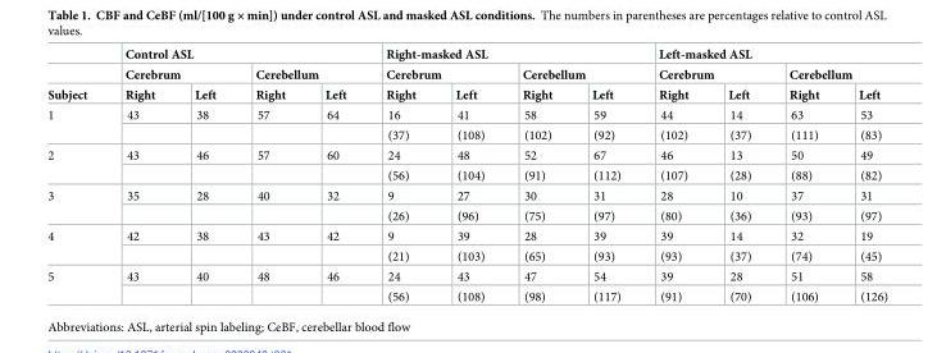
<table><thead><tr><td rowspan="3">Subject</td><td colspan="4">Control ASL</td><td colspan="4">Right-masked ASL</td><td colspan="4">Left-masked ASL</td></tr><tr><td colspan="2">Cerebrum</td><td colspan="2">Cerebellum</td><td colspan="2">Cerebrum</td><td colspan="2">Cerebellum</td><td colspan="2">Cerebrum</td><td colspan="2">Cerebellum</td></tr><tr><td>Right</td><td>Left</td><td>Right</td><td>Left</td><td>Right</td><td>Left</td><td>Right</td><td>Left</td><td>Right</td><td>Left</td><td>Right</td><td>Left</td></tr></thead><tbody><tr><td rowspan="2">1</td><td>43</td><td>38</td><td>57</td><td>64</td><td>16</td><td>41</td><td>58</td><td>59</td><td>44</td><td>14</td><td>63</td><td>53</td></tr><tr><td></td><td></td><td></td><td></td><td>(37)</td><td>(108)</td><td>(102)</td><td>(92)</td><td>(102)</td><td>(37)</td><td>(111)</td><td>(83)</td></tr><tr><td rowspan="2">2</td><td>43</td><td>46</td><td>57</td><td>60</td><td>24</td><td>48</td><td>52</td><td>67</td><td>46</td><td>13</td><td>50</td><td>49</td></tr><tr><td></td><td></td><td></td><td></td><td>(56)</td><td>(104)</td><td>(91)</td><td>(112)</td><td>(107)</td><td>(28)</td><td>(88)</td><td>(82)</td></tr><tr><td rowspan="2">3</td><td>35</td><td>28</td><td>40</td><td>32</td><td>9</td><td>27</td><td>30</td><td>31</td><td>28</td><td>10</td><td>37</td><td>31</td></tr><tr><td></td><td></td><td></td><td></td><td>(26)</td><td>(96)</td><td>(75)</td><td>(97)</td><td>(80)</td><td>(36)</td><td>(93)</td><td>(97)</td></tr><tr><td rowspan="2">4</td><td>42</td><td>38</td><td>43</td><td>42</td><td>9</td><td>39</td><td>28</td><td>39</td><td>39</td><td>14</td><td>32</td><td>19</td></tr><tr><td></td><td></td><td></td><td></td><td>(21)</td><td>(103)</td><td>(65)</td><td>(93)</td><td>(93)</td><td>(37)</td><td>(74)</td><td>(45)</td></tr><tr><td rowspan="2">5</td><td>43</td><td>40</td><td>48</td><td>46</td><td>24</td><td>43</td><td>47</td><td>54</td><td>39</td><td>28</td><td>51</td><td>58</td></tr><tr><td></td><td></td><td></td><td></td><td>(56)</td><td>(108)</td><td>(98)</td><td>(117)</td><td>(91)</td><td>(70)</td><td>(106)</td><td>(126)</td></tr></tbody></table>